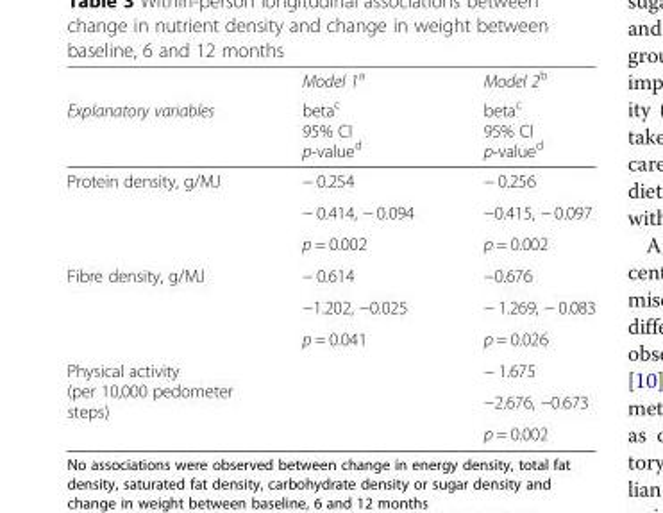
<table><thead><tr><td rowspan="2">Explanatory variables</td><td rowspan="2">Model 1<sup>a</sup> beta<sup>c</sup> 95% CI p-value<sup>d</sup></td><td rowspan="2">Model 2<sup>b</sup> beta<sup>c</sup> 95% CI p-value<sup>d</sup></td></tr><tr></tr></thead><tbody><tr><td rowspan="3">Protein density, g/MJ</td><td>− 0.254</td><td>− 0.256</td></tr><tr><td>− 0.414, − 0.094</td><td>−0.415, − 0.097</td></tr><tr><td>p = 0.002</td><td>p = 0.002</td></tr><tr><td rowspan="3">Fibre density, g/MJ</td><td>− 0.614</td><td>−0.676</td></tr><tr><td>−1.202, −0.025</td><td>− 1.269, − 0.083</td></tr><tr><td>p = 0.041</td><td>p = 0.026</td></tr><tr><td rowspan="3">Physical activity (per 10,000 pedometer steps)</td><td rowspan="3"></td><td>− 1.675</td></tr><tr><td>−2.676, −0.673</td></tr><tr><td>p = 0.002</td></tr></tbody></table>